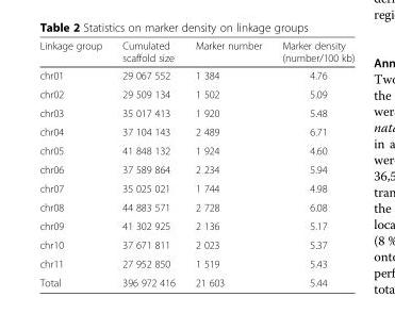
<table><thead><tr><td>Linkage group</td><td>Cumulated scaffold size</td><td>Marker number</td><td>Marker density (number/100 kb)</td></tr></thead><tbody><tr><td>chr01</td><td>29 067 552</td><td>1 384</td><td>4.76</td></tr><tr><td>chr02</td><td>29 509 134</td><td>1 502</td><td>5.09</td></tr><tr><td>chr03</td><td>35 017 413</td><td>1 920</td><td>5.48</td></tr><tr><td>chr04</td><td>37 104 143</td><td>2 489</td><td>6.71</td></tr><tr><td>chr05</td><td>41 848 132</td><td>1 924</td><td>4.60</td></tr><tr><td>chr06</td><td>37 589 864</td><td>2 234</td><td>5.94</td></tr><tr><td>chr07</td><td>35 025 021</td><td>1 744</td><td>4.98</td></tr><tr><td>chr08</td><td>44 883 571</td><td>2 728</td><td>6.08</td></tr><tr><td>chr09</td><td>41 302 925</td><td>2 136</td><td>5.17</td></tr><tr><td>chr10</td><td>37 671 811</td><td>2 023</td><td>5.37</td></tr><tr><td>chr11</td><td>27 952 850</td><td>1 519</td><td>5.43</td></tr><tr><td>Total</td><td>396 972 416</td><td>21 603</td><td>5.44</td></tr></tbody></table>